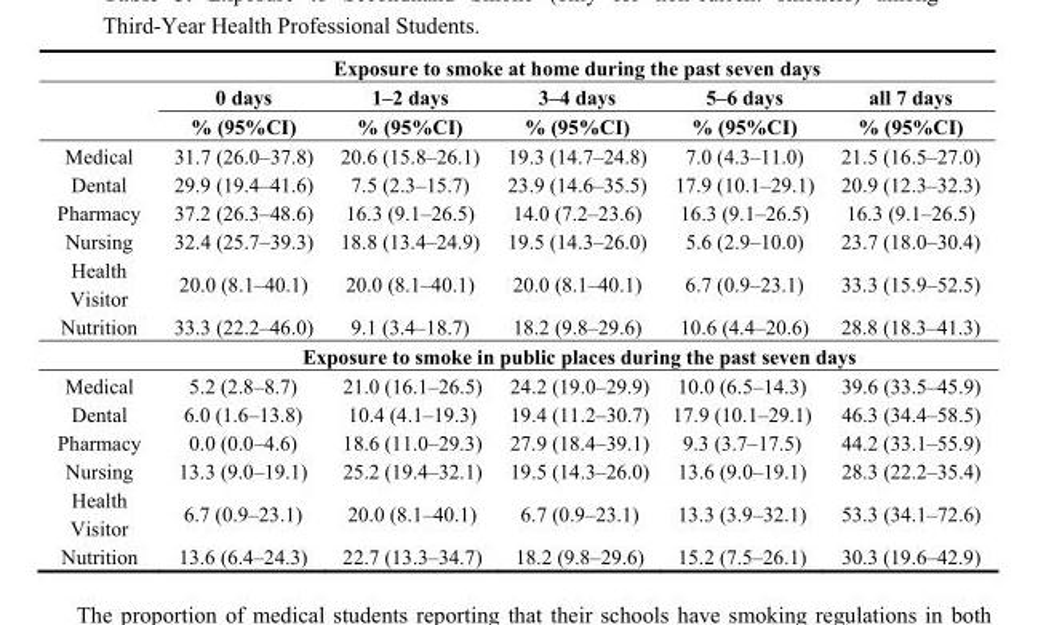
<table><thead><tr><td colspan="6">Exposure to smoke at home during the past seven days</td></tr><tr><td rowspan="2"></td><td rowspan="2">0 days % (95%CI)</td><td rowspan="2">1–2 days % (95%CI)</td><td rowspan="2">3–4 days % (95%CI)</td><td rowspan="2">5–6 days % (95%CI)</td><td rowspan="2">all 7 days % (95%CI)</td></tr><tr></tr></thead><tbody><tr><td>Medical</td><td>31.7 (26.0–37.8)</td><td>20.6 (15.8–26.1)</td><td>19.3 (14.7–24.8)</td><td>7.0 (4.3–11.0)</td><td>21.5 (16.5–27.0)</td></tr><tr><td>Dental</td><td>29.9 (19.4–41.6)</td><td>7.5 (2.3–15.7)</td><td>23.9 (14.6–35.5)</td><td>17.9 (10.1–29.1)</td><td>20.9 (12.3–32.3)</td></tr><tr><td>Pharmacy</td><td>37.2 (26.3–48.6)</td><td>16.3 (9.1–26.5)</td><td>14.0 (7.2–23.6)</td><td>16.3 (9.1–26.5)</td><td>16.3 (9.1–26.5)</td></tr><tr><td>Nursing</td><td>32.4 (25.7–39.3)</td><td>18.8 (13.4–24.9)</td><td>19.5 (14.3–26.0)</td><td>5.6 (2.9–10.0)</td><td>23.7 (18.0–30.4)</td></tr><tr><td>Health Visitor</td><td>20.0 (8.1–40.1)</td><td>20.0 (8.1–40.1)</td><td>20.0 (8.1–40.1)</td><td>6.7 (0.9–23.1)</td><td>33.3 (15.9–52.5)</td></tr><tr><td>Nutrition</td><td>33.3 (22.2–46.0)</td><td>9.1 (3.4–18.7)</td><td>18.2 (9.8–29.6)</td><td>10.6 (4.4–20.6)</td><td>28.8 (18.3–41.3)</td></tr><tr><td colspan="6">Exposure to smoke in public places during the past seven days</td></tr><tr><td>Medical</td><td>5.2 (2.8–8.7)</td><td>21.0 (16.1–26.5)</td><td>24.2 (19.0–29.9)</td><td>10.0 (6.5–14.3)</td><td>39.6 (33.5–45.9)</td></tr><tr><td>Dental</td><td>6.0 (1.6–13.8)</td><td>10.4 (4.1–19.3)</td><td>19.4 (11.2–30.7)</td><td>17.9 (10.1–29.1)</td><td>46.3 (34.4–58.5)</td></tr><tr><td>Pharmacy</td><td>0.0 (0.0–4.6)</td><td>18.6 (11.0–29.3)</td><td>27.9 (18.4–39.1)</td><td>9.3 (3.7–17.5)</td><td>44.2 (33.1–55.9)</td></tr><tr><td>Nursing</td><td>13.3 (9.0–19.1)</td><td>25.2 (19.4–32.1)</td><td>19.5 (14.3–26.0)</td><td>13.6 (9.0–19.1)</td><td>28.3 (22.2–35.4)</td></tr><tr><td>Health Visitor</td><td>6.7 (0.9–23.1)</td><td>20.0 (8.1–40.1)</td><td>6.7 (0.9–23.1)</td><td>13.3 (3.9–32.1)</td><td>53.3 (34.1–72.6)</td></tr><tr><td>Nutrition</td><td>13.6 (6.4–24.3)</td><td>22.7 (13.3–34.7)</td><td>18.2 (9.8–29.6)</td><td>15.2 (7.5–26.1)</td><td>30.3 (19.6–42.9)</td></tr></tbody></table>